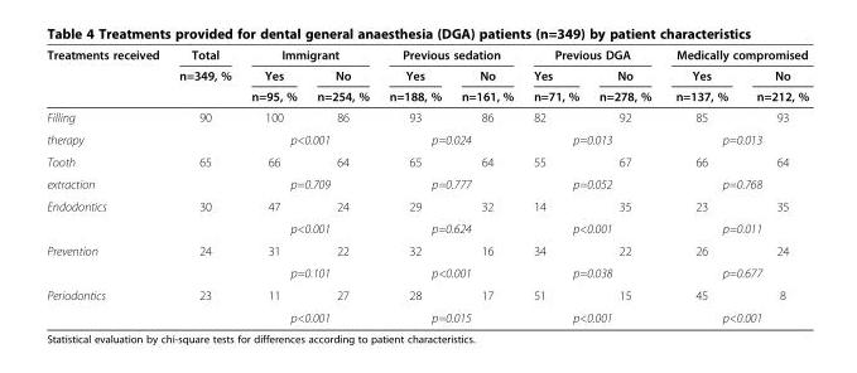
<table><thead><tr><td rowspan="3">Treatments received</td><td rowspan="3">Total n=349, %</td><td colspan="2">Immigrant</td><td colspan="2">Previous sedation</td><td colspan="2">Previous DGA</td><td colspan="2">Medically compromised</td></tr><tr><td rowspan="2">Yes n=95, %</td><td rowspan="2">No n=254, %</td><td rowspan="2">Yes n=188, %</td><td rowspan="2">No n=161, %</td><td rowspan="2">Yes n=71, %</td><td rowspan="2">No n=278, %</td><td rowspan="2">Yes n=137, %</td><td rowspan="2">No n=212, %</td></tr><tr></tr></thead><tbody><tr><td>Filling</td><td>90</td><td>100</td><td>86</td><td>93</td><td>86</td><td>82</td><td>92</td><td>85</td><td>93</td></tr><tr><td>therapy</td><td></td><td colspan="2">p&lt;0.001</td><td colspan="2">p=0.024</td><td colspan="2">p=0.013</td><td colspan="2">p=0.013</td></tr><tr><td>Tooth</td><td>65</td><td>66</td><td>64</td><td>65</td><td>64</td><td>55</td><td>67</td><td>66</td><td>64</td></tr><tr><td>extraction</td><td></td><td colspan="2">p=0.709</td><td colspan="2">p=0.777</td><td colspan="2">p=0.052</td><td colspan="2">p=0.768</td></tr><tr><td rowspan="2">Endodontics</td><td>30</td><td>47</td><td>24</td><td>29</td><td>32</td><td>14</td><td>35</td><td>23</td><td>35</td></tr><tr><td></td><td colspan="2">p&lt;0.001</td><td colspan="2">p=0.624</td><td colspan="2">p&lt;0.001</td><td colspan="2">p=0.011</td></tr><tr><td rowspan="2">Prevention</td><td>24</td><td>31</td><td>22</td><td>32</td><td>16</td><td>34</td><td>22</td><td>26</td><td>24</td></tr><tr><td></td><td colspan="2">p=0.101</td><td colspan="2">p&lt;0.001</td><td colspan="2">p=0.038</td><td colspan="2">p=0.677</td></tr><tr><td rowspan="2">Periodontics</td><td>23</td><td>11</td><td>27</td><td>28</td><td>17</td><td>51</td><td>15</td><td>45</td><td>8</td></tr><tr><td></td><td colspan="2">p&lt;0.001</td><td colspan="2">p=0.015</td><td colspan="2">p&lt;0.001</td><td colspan="2">p&lt;0.001</td></tr></tbody></table>